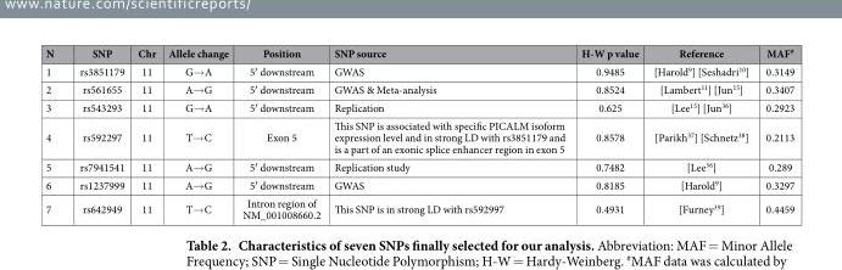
<table><thead><tr><td>N</td><td>SNP</td><td>Chr</td><td>Allele change</td><td>Position</td><td>SNP source</td><td>H-W p value</td><td>Reference</td><td>MAF#</td></tr></thead><tbody><tr><td>1</td><td>rs3851179</td><td>11</td><td>G→ A</td><td>5′ downstream</td><td>GWAS</td><td>0.9485</td><td>[Harold<sup>9</sup>] [Seshadri<sup>10</sup>]</td><td>0.3149</td></tr><tr><td>2</td><td>rs561655</td><td>11</td><td>A→ G</td><td>5′ downstream</td><td>GWAS &amp; Meta-analysis</td><td>0.8524</td><td>[Lambert<sup>11</sup>] [Jun<sup>15</sup>]</td><td>0.3407</td></tr><tr><td>3</td><td>rs543293</td><td>11</td><td>G→ A</td><td>5′ downstream</td><td>Replication</td><td>0.625</td><td>[Lee<sup>15</sup>] [Jun<sup>36</sup>]</td><td>0.2923</td></tr><tr><td>4</td><td>rs592297</td><td>11</td><td>T→ C</td><td>Exon 5</td><td>This SNP is associated with specific PICALM isoform expression level and in strong LD with rs3851179 and is a part of an exonic splice enhancer region in exon 5</td><td>0.8578</td><td>[Parikh<sup>37</sup>] [Schnetz<sup>38</sup>]</td><td>0.2113</td></tr><tr><td>5</td><td>rs7941541</td><td>11</td><td>A→ G</td><td>5′ downstream</td><td>Replication study</td><td>0.7482</td><td>[Lee<sup>36</sup>]</td><td>0.289</td></tr><tr><td>6</td><td>rs1237999</td><td>11</td><td>A→ G</td><td>5′ downstream</td><td>GWAS</td><td>0.8185</td><td>[Harold<sup>9</sup>]</td><td>0.3297</td></tr><tr><td>7</td><td>rs642949</td><td>11</td><td>T→ C</td><td>Intron region of NM_001008660.2</td><td>This SNP is in strong LD with rs592997</td><td>0.4931</td><td>[Furney<sup>39</sup>]</td><td>0.4459</td></tr></tbody></table>